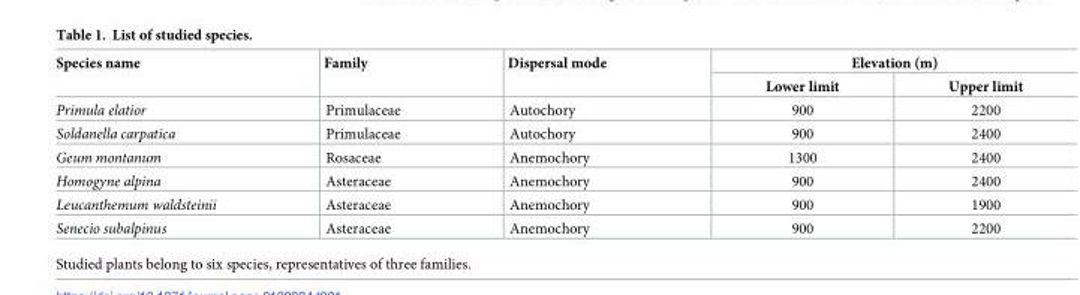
<table><thead><tr><td rowspan="2">Species name</td><td rowspan="2">Family</td><td rowspan="2">Dispersal mode</td><td colspan="2">Elevation (m)</td></tr><tr><td>Lower limit</td><td>Upper limit</td></tr></thead><tbody><tr><td>Primula elatior</td><td>Primulaceae</td><td>Autochory</td><td>900</td><td>2200</td></tr><tr><td>Soldanella carpatica</td><td>Primulaceae</td><td>Autochory</td><td>900</td><td>2400</td></tr><tr><td>Geum montanum</td><td>Rosaceae</td><td>Anemochory</td><td>1300</td><td>2400</td></tr><tr><td>Homogyne alpina</td><td>Asteraceae</td><td>Anemochory</td><td>900</td><td>2400</td></tr><tr><td>Leucanthemum waldsteinii</td><td>Asteraceae</td><td>Anemochory</td><td>900</td><td>1900</td></tr><tr><td>Senecio subalpinus</td><td>Asteraceae</td><td>Anemochory</td><td>900</td><td>2200</td></tr></tbody></table>